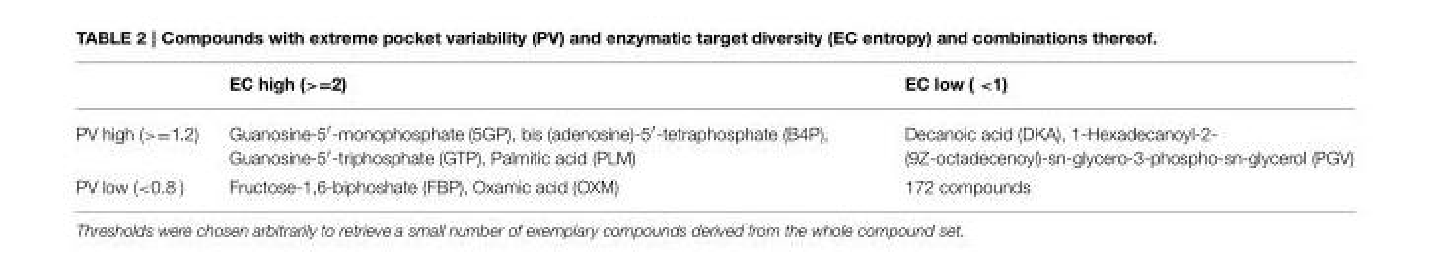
<table><thead><tr><td></td><td>EC high (&gt;=2)</td><td>EC low ( &lt;1)</td></tr></thead><tbody><tr><td>PV high (&gt;=1.2)</td><td>Guanosine-5′-monophosphate (5GP), bis (adenosine)-5′-tetraphosphate (B4P), Guanosine-5′-triphosphate (GTP), Palmitic acid (PLM)</td><td>Decanoic acid (DKA), 1-Hexadecanoyl-2- (9Z-octadecenoyl)-sn-glycero-3-phospho-sn-glycerol (PGV)</td></tr><tr><td>PV low (&lt;0.8 )</td><td>Fructose-1,6-biphoshate (FBP), Oxamic acid (OXM)</td><td>172 compounds</td></tr></tbody></table>